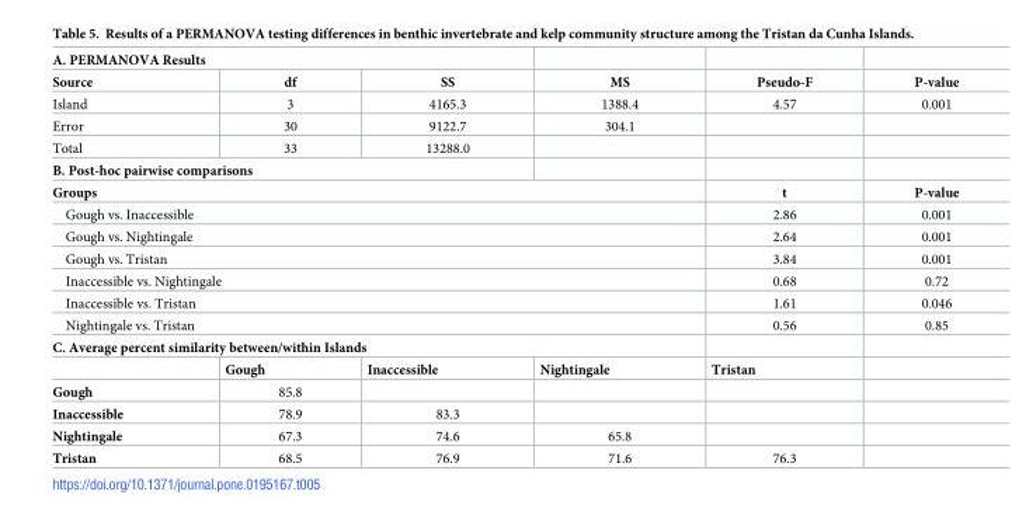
<table><tbody><tr><td colspan="6">A. PERMANOVA Results</td></tr><tr><td>Source</td><td>df</td><td>SS</td><td>MS</td><td>Pseudo-F</td><td>P-value</td></tr><tr><td>Island</td><td>3</td><td>4165.3</td><td>1388.4</td><td>4.57</td><td>0.001</td></tr><tr><td>Error</td><td>30</td><td>9122.7</td><td>304.1</td><td></td><td></td></tr><tr><td>Total</td><td>33</td><td>13288.0</td><td></td><td></td><td></td></tr><tr><td colspan="6">B. Post-hoc pairwise comparisons</td></tr><tr><td colspan="4">Groups</td><td>t</td><td>P-value</td></tr><tr><td colspan="4">Gough vs. Inaccessible</td><td>2.86</td><td>0.001</td></tr><tr><td colspan="4">Gough vs. Nightingale</td><td>2.64</td><td>0.001</td></tr><tr><td colspan="4">Gough vs. Tristan</td><td>3.84</td><td>0.001</td></tr><tr><td colspan="4">Inaccessible vs. Nightingale</td><td>0.68</td><td>0.72</td></tr><tr><td colspan="4">Inaccessible vs. Tristan</td><td>1.61</td><td>0.046</td></tr><tr><td colspan="4">Nightingale vs. Tristan</td><td>0.56</td><td>0.85</td></tr><tr><td colspan="6">C. Average percent similarity between/within Islands</td></tr><tr><td></td><td>Gough</td><td>Inaccessible</td><td>Nightingale</td><td>Tristan</td><td></td></tr><tr><td>Gough</td><td>85.8</td><td></td><td></td><td></td><td></td></tr><tr><td>Inaccessible</td><td>78.9</td><td>83.3</td><td></td><td></td><td></td></tr><tr><td>Nightingale</td><td>67.3</td><td>74.6</td><td>65.8</td><td></td><td></td></tr><tr><td>Tristan</td><td>68.5</td><td>76.9</td><td>71.6</td><td>76.3</td><td></td></tr></tbody></table>